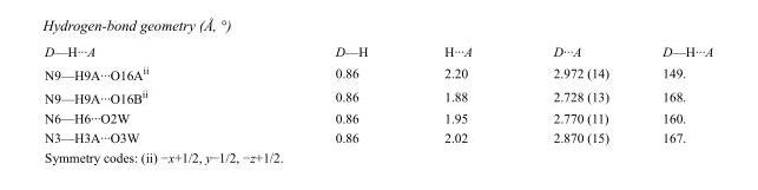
<table><tbody><tr><td>D—H···A</td><td>D—H</td><td>H···A</td><td>D···A</td><td>D—H···A</td></tr><tr><td>N9—H9A···O16A<sup>ii</sup></td><td>0.86</td><td>2.20</td><td>2.972 (14)</td><td>149.</td></tr><tr><td>N9—H9A···O16B<sup>ii</sup></td><td>0.86</td><td>1.88</td><td>2.728 (13)</td><td>168.</td></tr><tr><td>N6—H6···O2W</td><td>0.86</td><td>1.95</td><td>2.770 (11)</td><td>160.</td></tr><tr><td>N3—H3A···O3W</td><td>0.86</td><td>2.02</td><td>2.870 (15)</td><td>167.</td></tr></tbody></table>